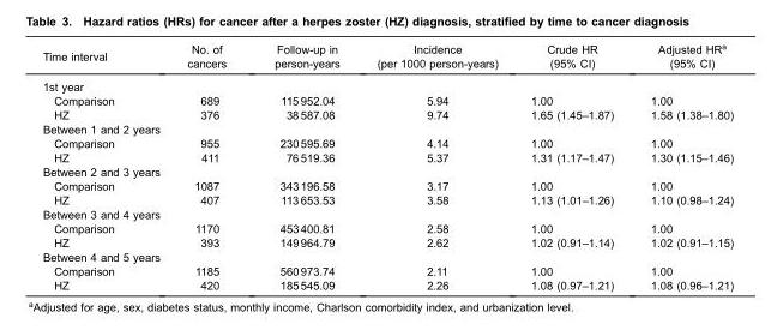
<table><thead><tr><td>Time interval</td><td>No. of cancers</td><td>Follow-up in person-years</td><td>Incidence (per 1000 person-years)</td><td>Crude HR (95% CI)</td><td>Adjusted HR<sup>a</sup> (95% CI)</td></tr></thead><tbody><tr><td colspan="6">1st year</td></tr><tr><td>Comparison</td><td>689</td><td>115 952.04</td><td>5.94</td><td>1.00</td><td>1.00</td></tr><tr><td>HZ</td><td>376</td><td>38 587.08</td><td>9.74</td><td>1.65 (1.45–1.87)</td><td>1.58 (1.38–1.80)</td></tr><tr><td colspan="6">Between 1 and 2 years</td></tr><tr><td>Comparison</td><td>955</td><td>230 595.69</td><td>4.14</td><td>1.00</td><td>1.00</td></tr><tr><td>HZ</td><td>411</td><td>76 519.36</td><td>5.37</td><td>1.31 (1.17–1.47)</td><td>1.30 (1.15–1.46)</td></tr><tr><td colspan="6">Between 2 and 3 years</td></tr><tr><td>Comparison</td><td>1087</td><td>343 196.58</td><td>3.17</td><td>1.00</td><td>1.00</td></tr><tr><td>HZ</td><td>407</td><td>113 653.53</td><td>3.58</td><td>1.13 (1.01–1.26)</td><td>1.10 (0.98–1.24)</td></tr><tr><td colspan="6">Between 3 and 4 years</td></tr><tr><td>Comparison</td><td>1170</td><td>453 400.81</td><td>2.58</td><td>1.00</td><td>1.00</td></tr><tr><td>HZ</td><td>393</td><td>149 964.79</td><td>2.62</td><td>1.02 (0.91–1.14)</td><td>1.02 (0.91–1.15)</td></tr><tr><td colspan="6">Between 4 and 5 years</td></tr><tr><td>Comparison</td><td>1185</td><td>560 973.74</td><td>2.11</td><td>1.00</td><td>1.00</td></tr><tr><td>HZ</td><td>420</td><td>185 545.09</td><td>2.26</td><td>1.08 (0.97–1.21)</td><td>1.08 (0.96–1.21)</td></tr></tbody></table>